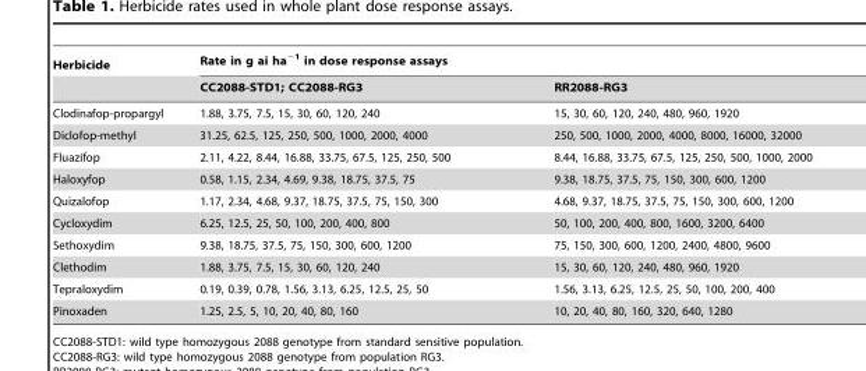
<table><thead><tr><td rowspan="2">Herbicide</td><td colspan="2">Rate in g ai ha<sup>−1</sup> in dose response assays</td></tr><tr><td>CC2088-STD1; CC2088-RG3</td><td>RR2088-RG3</td></tr></thead><tbody><tr><td>Clodinafop-propargyl</td><td>1.88, 3.75, 7.5, 15, 30, 60, 120, 240</td><td>15, 30, 60, 120, 240, 480, 960, 1920</td></tr><tr><td>Diclofop-methyl</td><td>31.25, 62.5, 125, 250, 500, 1000, 2000, 4000</td><td>250, 500, 1000, 2000, 4000, 8000, 16000, 32000</td></tr><tr><td>Fluazifop</td><td>2.11, 4.22, 8.44, 16.88, 33.75, 67.5, 125, 250, 500</td><td>8.44, 16.88, 33.75, 67.5, 125, 250, 500, 1000, 2000</td></tr><tr><td>Haloxyfop</td><td>0.58, 1.15, 2.34, 4.69, 9.38, 18.75, 37.5, 75</td><td>9.38, 18.75, 37.5, 75, 150, 300, 600, 1200</td></tr><tr><td>Quizalofop</td><td>1.17, 2.34, 4.68, 9.37, 18.75, 37.5, 75, 150, 300</td><td>4.68, 9.37, 18.75, 37.5, 75, 150, 300, 600, 1200</td></tr><tr><td>Cycloxydim</td><td>6.25, 12.5, 25, 50, 100, 200, 400, 800</td><td>50, 100, 200, 400, 800, 1600, 3200, 6400</td></tr><tr><td>Sethoxydim</td><td>9.38, 18.75, 37.5, 75, 150, 300, 600, 1200</td><td>75, 150, 300, 600, 1200, 2400, 4800, 9600</td></tr><tr><td>Clethodim</td><td>1.88, 3.75, 7.5, 15, 30, 60, 120, 240</td><td>15, 30, 60, 120, 240, 480, 960, 1920</td></tr><tr><td>Tepraloxydim</td><td>0.19, 0.39, 0.78, 1.56, 3.13, 6.25, 12.5, 25, 50</td><td>1.56, 3.13, 6.25, 12.5, 25, 50, 100, 200, 400</td></tr><tr><td>Pinoxaden</td><td>1.25, 2.5, 5, 10, 20, 40, 80, 160</td><td>10, 20, 40, 80, 160, 320, 640, 1280</td></tr></tbody></table>